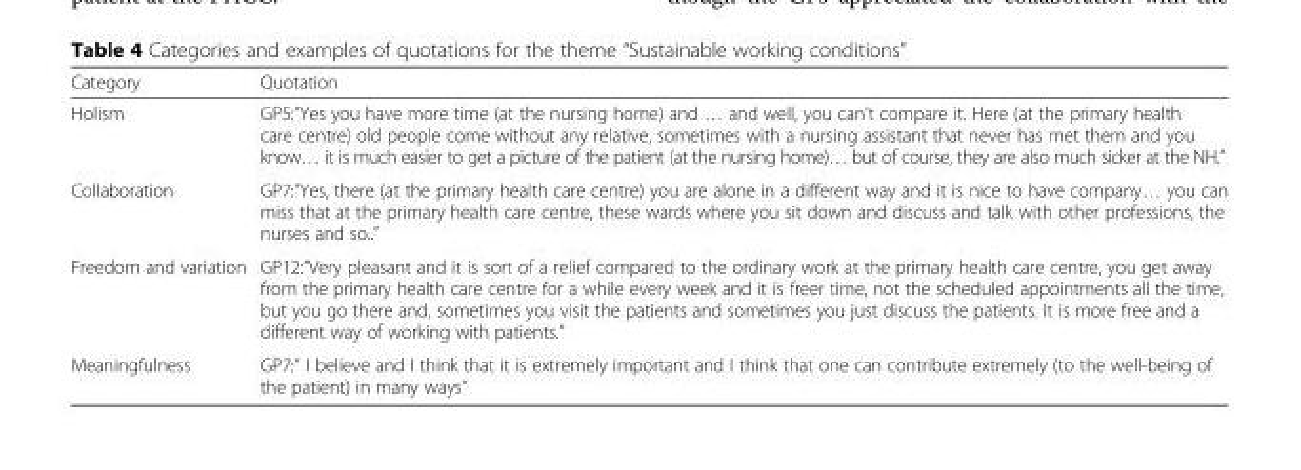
<table><thead><tr><td>Category</td><td>Quotation</td></tr></thead><tbody><tr><td>Holism</td><td>GP5:”Yes you have more time (at the nursing home) and … and well, you can’t compare it. Here (at the primary health care centre) old people come without any relative, sometimes with a nursing assistant that never has met them and you know… it is much easier to get a picture of the patient (at the nursing home)… but of course, they are also much sicker at the NH.”</td></tr><tr><td>Collaboration</td><td>GP7:”Yes, there (at the primary health care centre) you are alone in a different way and it is nice to have company… you can miss that at the primary health care centre, these wards where you sit down and discuss and talk with other professions, the nurses and so..”</td></tr><tr><td>Freedom and variation</td><td>GP12:”Very pleasant and it is sort of a relief compared to the ordinary work at the primary health care centre, you get away from the primary health care centre for a while every week and it is freer time, not the scheduled appointments all the time, but you go there and, sometimes you visit the patients and sometimes you just discuss the patients. It is more free and a different way of working with patients.”</td></tr><tr><td>Meaningfulness</td><td>GP7:” I believe and I think that it is extremely important and I think that one can contribute extremely (to the well-being of the patient) in many ways”</td></tr></tbody></table>